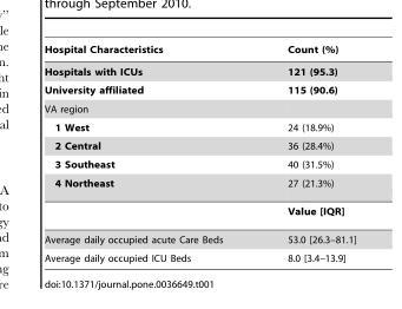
<table><thead><tr><td>Hospital Characteristics</td><td>Count (%)</td></tr></thead><tbody><tr><td>Hospitals with ICUs</td><td>121 (95.3)</td></tr><tr><td>University affiliated</td><td>115 (90.6)</td></tr><tr><td colspan="2">VA region</td></tr><tr><td>1 West</td><td>24 (18.9%)</td></tr><tr><td>2 Central</td><td>36 (28.4%)</td></tr><tr><td>3 Southeast</td><td>40 (31.5%)</td></tr><tr><td rowspan="2">4 Northeast</td><td>27 (21.3%)</td></tr><tr><td>Value [IQR]</td></tr><tr><td>Average daily occupied acute Care Beds</td><td>53.0 [26.3–81.1]</td></tr><tr><td>Average daily occupied ICU Beds</td><td>8.0 [3.4–13.9]</td></tr></tbody></table>